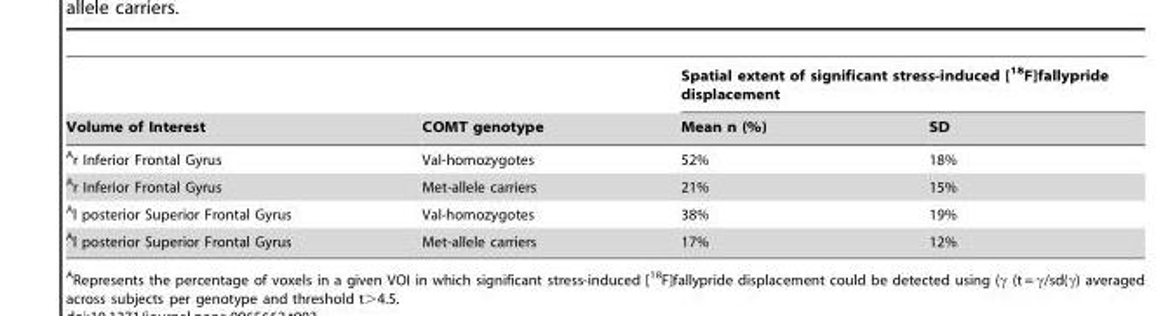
<table><thead><tr><td rowspan="2">Volume of Interest</td><td rowspan="2">COMT genotype</td><td colspan="2">Spatial extent of significant stress-induced [<sup>18</sup>F]fallypride displacement</td></tr><tr><td>Mean n (%)</td><td>SD</td></tr></thead><tbody><tr><td>Ar Inferior Frontal Gyrus</td><td>Val-homozygotes</td><td>52%</td><td>18%</td></tr><tr><td>Ar Inferior Frontal Gyrus</td><td>Met-allele carriers</td><td>21%</td><td>15%</td></tr><tr><td>Al posterior Superior Frontal Gyrus</td><td>Val-homozygotes</td><td>38%</td><td>19%</td></tr><tr><td>Al posterior Superior Frontal Gyrus</td><td>Met-allele carriers</td><td>17%</td><td>12%</td></tr></tbody></table>